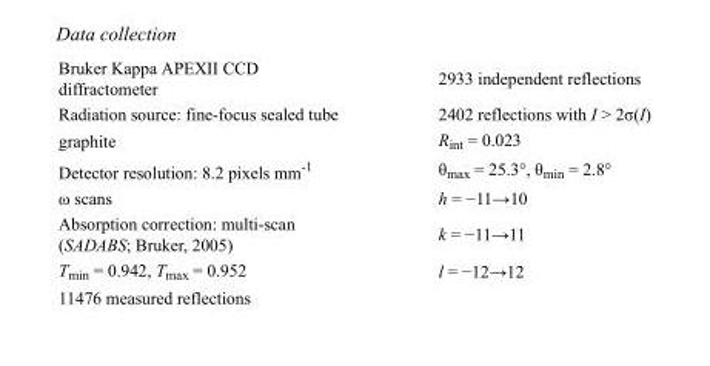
<table><tbody><tr><td>Bruker Kappa APEXII CCD diffractometer</td><td>2933 independent reflections</td></tr><tr><td>Radiation source: fine-focus sealed tube</td><td>2402 reflections with I &gt; 2σ(I)</td></tr><tr><td>graphite</td><td>R<sub>int</sub> = 0.023</td></tr><tr><td>Detector resolution: 8.2 pixels mm<sup>-1</sup></td><td>θ<sub>max</sub> = 25.3°, θ<sub>min</sub> = 2.8°</td></tr><tr><td>ω scans</td><td>h = −11→10</td></tr><tr><td>Absorption correction: multi-scan (SADABS; Bruker, 2005)</td><td>k = −11→11</td></tr><tr><td>T<sub>min</sub> = 0.942, T<sub>max</sub> = 0.952</td><td>l = −12→12</td></tr><tr><td>11476 measured reflections</td><td></td></tr></tbody></table>